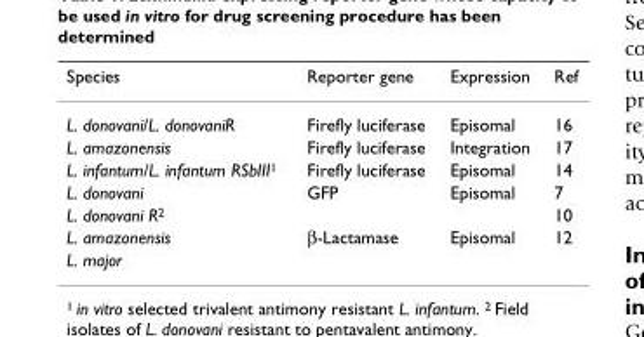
<table><thead><tr><td>Species</td><td>Reporter gene</td><td>Expression</td><td>Ref</td></tr></thead><tbody><tr><td>L. donovani/L. donovaniR</td><td>Firefly luciferase</td><td>Episomal</td><td>16</td></tr><tr><td>L. amazonensis</td><td>Firefly luciferase</td><td>Integration</td><td>17</td></tr><tr><td>L. infantum/L. infantum RSbIII<sup>1</sup></td><td>Firefly luciferase</td><td>Episomal</td><td>14</td></tr><tr><td>L. donovani</td><td>GFP</td><td>Episomal</td><td>7</td></tr><tr><td>L. donovani R<sup>2</sup></td><td></td><td></td><td>10</td></tr><tr><td>L. amazonensis</td><td>β-Lactamase</td><td>Episomal</td><td>12</td></tr><tr><td>L. major</td><td></td><td></td><td></td></tr></tbody></table>